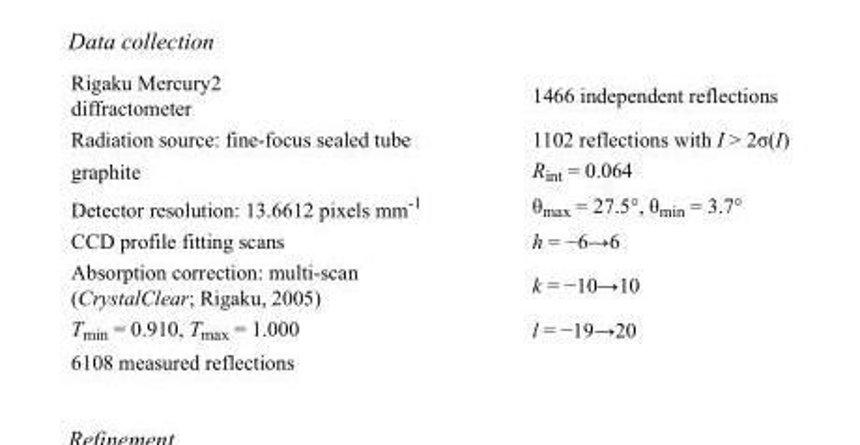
<table><tbody><tr><td>Rigaku Mercury2 diffractometer</td><td>1466 independent reflections</td></tr><tr><td>Radiation source: fine-focus sealed tube</td><td>1102 reflections with I &gt; 2σ(I)</td></tr><tr><td>graphite</td><td>R<sub>int</sub> = 0.064</td></tr><tr><td>Detector resolution: 13.6612 pixels mm<sup>-1</sup></td><td>θ<sub>max</sub> = 27.5°, θ<sub>min</sub> = 3.7°</td></tr><tr><td>CCD profile fitting scans</td><td>h = −6→6</td></tr><tr><td>Absorption correction: multi-scan (CrystalClear; Rigaku, 2005)</td><td>k = −10→10</td></tr><tr><td>T<sub>min</sub> = 0.910, T<sub>max</sub> = 1.000</td><td>l = −19→20</td></tr><tr><td>6108 measured reflections</td><td></td></tr></tbody></table>